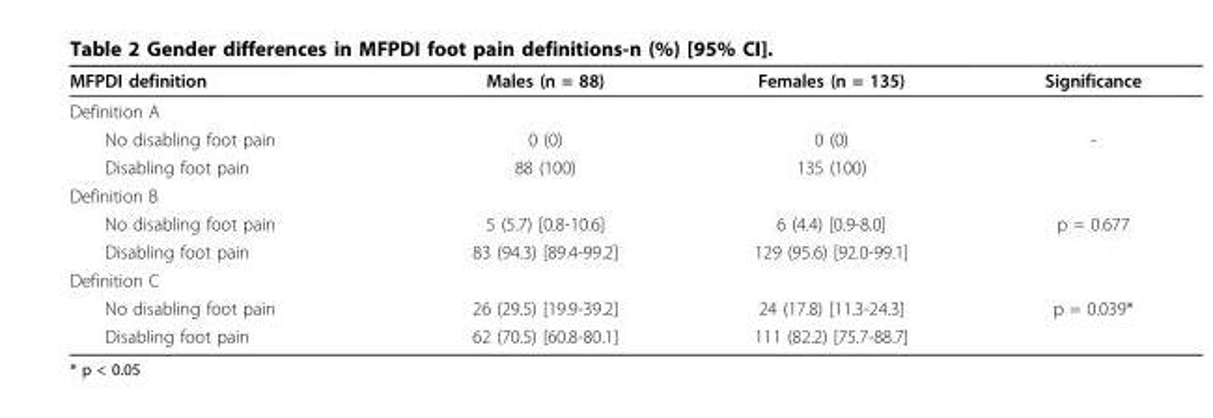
<table><thead><tr><td>MFPDI definition</td><td>Males (n = 88)</td><td>Females (n = 135)</td><td>Significance</td></tr></thead><tbody><tr><td colspan="4">Definition A</td></tr><tr><td>No disabling foot pain</td><td>0 (0)</td><td>0 (0)</td><td>-</td></tr><tr><td>Disabling foot pain</td><td>88 (100)</td><td>135 (100)</td><td></td></tr><tr><td colspan="4">Definition B</td></tr><tr><td>No disabling foot pain</td><td>5 (5.7) [0.8-10.6]</td><td>6 (4.4) [0.9-8.0]</td><td>p = 0.677</td></tr><tr><td>Disabling foot pain</td><td>83 (94.3) [89.4-99.2]</td><td>129 (95.6) [92.0-99.1]</td><td></td></tr><tr><td colspan="4">Definition C</td></tr><tr><td>No disabling foot pain</td><td>26 (29.5) [19.9-39.2]</td><td>24 (17.8) [11.3-24.3]</td><td>p = 0.039*</td></tr><tr><td>Disabling foot pain</td><td>62 (70.5) [60.8-80.1]</td><td>111 (82.2) [75.7-88.7]</td><td></td></tr></tbody></table>